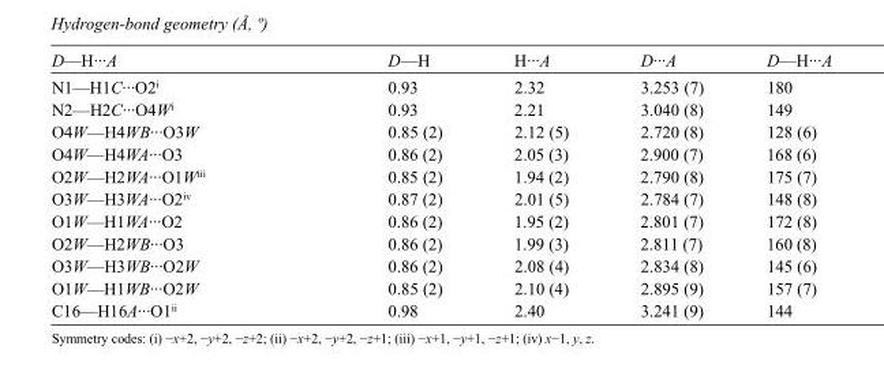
<table><tbody><tr><td>D—H···A</td><td>D—H</td><td>H···A</td><td>D···A</td><td>D—H···A</td></tr><tr><td>N1—H1C···O2<sup>i</sup></td><td>0.93</td><td>2.32</td><td>3.253 (7)</td><td>180</td></tr><tr><td>N2—H2C···O4W<sup>i</sup></td><td>0.93</td><td>2.21</td><td>3.040 (8)</td><td>149</td></tr><tr><td>O4W—H4WB···O3W</td><td>0.85 (2)</td><td>2.12 (5)</td><td>2.720 (8)</td><td>128 (6)</td></tr><tr><td>O4W—H4WA···O3</td><td>0.86 (2)</td><td>2.05 (3)</td><td>2.900 (7)</td><td>168 (6)</td></tr><tr><td>O2W—H2WA···O1W<sup>iii</sup></td><td>0.85 (2)</td><td>1.94 (2)</td><td>2.790 (8)</td><td>175 (7)</td></tr><tr><td>O3W—H3WA···O2<sup>iv</sup></td><td>0.87 (2)</td><td>2.01 (5)</td><td>2.784 (7)</td><td>148 (8)</td></tr><tr><td>O1W—H1WA···O2</td><td>0.86 (2)</td><td>1.95 (2)</td><td>2.801 (7)</td><td>172 (8)</td></tr><tr><td>O2W—H2WB···O3</td><td>0.86 (2)</td><td>1.99 (3)</td><td>2.811 (7)</td><td>160 (8)</td></tr><tr><td>O3W—H3WB···O2W</td><td>0.86 (2)</td><td>2.08 (4)</td><td>2.834 (8)</td><td>145 (6)</td></tr><tr><td>O1W—H1WB···O2W</td><td>0.85 (2)</td><td>2.10 (4)</td><td>2.895 (9)</td><td>157 (7)</td></tr><tr><td>C16—H16A···O1<sup>ii</sup></td><td>0.98</td><td>2.40</td><td>3.241 (9)</td><td>144</td></tr></tbody></table>